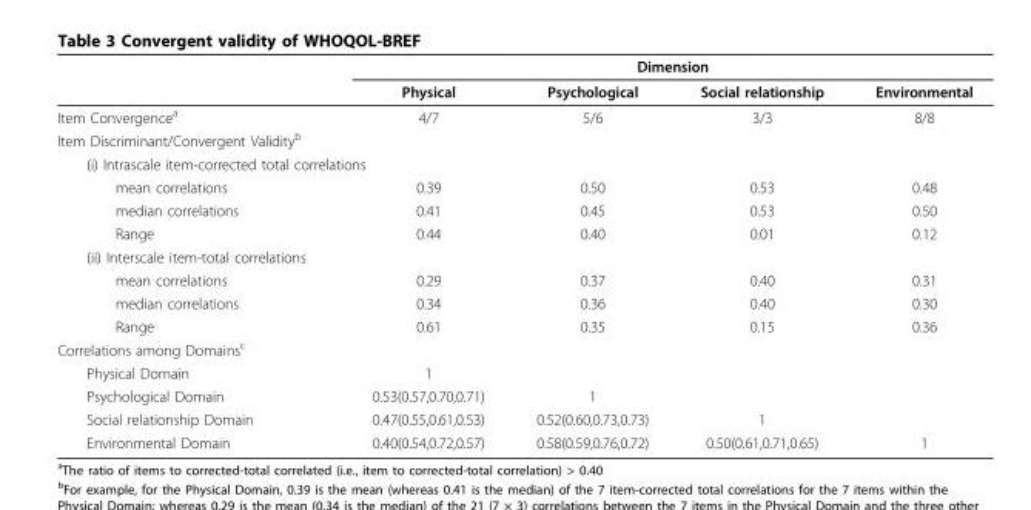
<table><thead><tr><td rowspan="2"></td><td colspan="4">Dimension</td></tr><tr><td>Physical</td><td>Psychological</td><td>Social relationship</td><td>Environmental</td></tr></thead><tbody><tr><td>Item Convergence<sup>a</sup></td><td>4/7</td><td>5/6</td><td>3/3</td><td>8/8</td></tr><tr><td colspan="5">Item Discriminant/Convergent Validity<sup>b</sup></td></tr><tr><td colspan="5">(i) Intrascale item-corrected total correlations</td></tr><tr><td>mean correlations</td><td>0.39</td><td>0.50</td><td>0.53</td><td>0.48</td></tr><tr><td>median correlations</td><td>0.41</td><td>0.45</td><td>0.53</td><td>0.50</td></tr><tr><td>Range</td><td>0.44</td><td>0.40</td><td>0.01</td><td>0.12</td></tr><tr><td colspan="5">(ii) Interscale item-total correlations</td></tr><tr><td>mean correlations</td><td>0.29</td><td>0.37</td><td>0.40</td><td>0.31</td></tr><tr><td>median correlations</td><td>0.34</td><td>0.36</td><td>0.40</td><td>0.30</td></tr><tr><td>Range</td><td>0.61</td><td>0.35</td><td>0.15</td><td>0.36</td></tr><tr><td colspan="5">Correlations among Domains<sup>c</sup></td></tr><tr><td>Physical Domain</td><td>1</td><td></td><td></td><td></td></tr><tr><td>Psychological Domain</td><td>0.53(0.57,0.70,0.71)</td><td>1</td><td></td><td></td></tr><tr><td>Social relationship Domain</td><td>0.47(0.55,0.61,0.53)</td><td>0.52(0.60,0.73,0.73)</td><td>1</td><td></td></tr><tr><td>Environmental Domain</td><td>0.40(0.54,0.72,0.57)</td><td>0.58(0.59,0.76,0.72)</td><td>0.50(0.61,0.71,0.65)</td><td>1</td></tr></tbody></table>